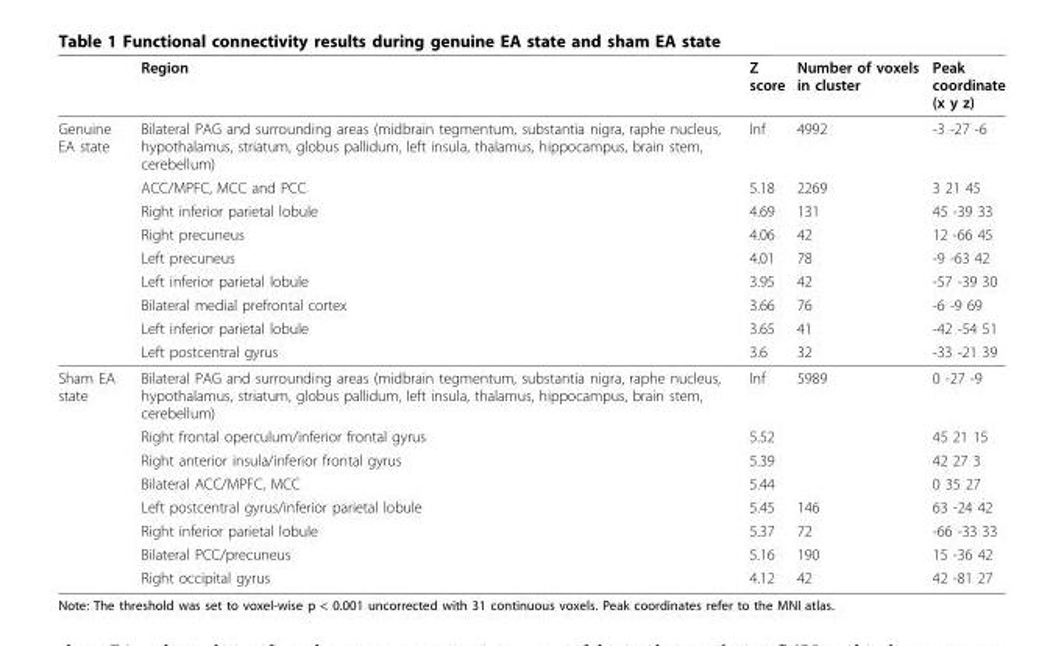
<table><thead><tr><td></td><td>Region</td><td>Z score</td><td>Number of voxels in cluster</td><td>Peak coordinate (x y z)</td></tr></thead><tbody><tr><td rowspan="9">Genuine EA state</td><td>Bilateral PAG and surrounding areas (midbrain tegmentum, substantia nigra, raphe nucleus, hypothalamus, striatum, globus pallidum, left insula, thalamus, hippocampus, brain stem, cerebellum)</td><td>Inf</td><td>4992</td><td>-3 -27 -6</td></tr><tr><td>ACC/MPFC, MCC and PCC</td><td>5.18</td><td>2269</td><td>3 21 45</td></tr><tr><td>Right inferior parietal lobule</td><td>4.69</td><td>131</td><td>45 -39 33</td></tr><tr><td>Right precuneus</td><td>4.06</td><td>42</td><td>12 -66 45</td></tr><tr><td>Left precuneus</td><td>4.01</td><td>78</td><td>-9 -63 42</td></tr><tr><td>Left inferior parietal lobule</td><td>3.95</td><td>42</td><td>-57 -39 30</td></tr><tr><td>Bilateral medial prefrontal cortex</td><td>3.66</td><td>76</td><td>-6 -9 69</td></tr><tr><td>Left inferior parietal lobule</td><td>3.65</td><td>41</td><td>-42 -54 51</td></tr><tr><td>Left postcentral gyrus</td><td>3.6</td><td>32</td><td>-33 -21 39</td></tr><tr><td rowspan="8">Sham EA state</td><td>Bilateral PAG and surrounding areas (midbrain tegmentum, substantia nigra, raphe nucleus, hypothalamus, striatum, globus pallidum, left insula, thalamus, hippocampus, brain stem, cerebellum)</td><td>Inf</td><td>5989</td><td>0 -27 -9</td></tr><tr><td>Right frontal operculum/inferior frontal gyrus</td><td>5.52</td><td></td><td>45 21 15</td></tr><tr><td>Right anterior insula/inferior frontal gyrus</td><td>5.39</td><td></td><td>42 27 3</td></tr><tr><td>Bilateral ACC/MPFC, MCC</td><td>5.44</td><td></td><td>0 35 27</td></tr><tr><td>Left postcentral gyrus/inferior parietal lobule</td><td>5.45</td><td>146</td><td>63 -24 42</td></tr><tr><td>Right inferior parietal lobule</td><td>5.37</td><td>72</td><td>-66 -33 33</td></tr><tr><td>Bilateral PCC/precuneus</td><td>5.16</td><td>190</td><td>15 -36 42</td></tr><tr><td>Right occipital gyrus</td><td>4.12</td><td>42</td><td>42 -81 27</td></tr></tbody></table>